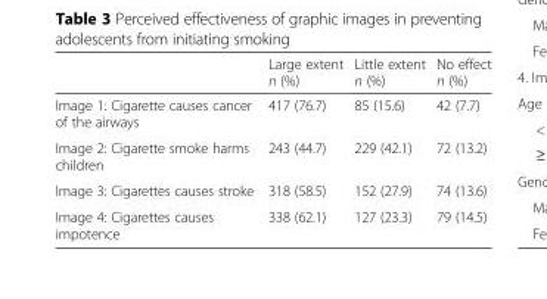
<table><thead><tr><td></td><td>Large extent n (%)</td><td>Little extent n (%)</td><td>No effect n (%)</td></tr></thead><tbody><tr><td>Image 1: Cigarette causes cancer of the airways</td><td>417 (76.7)</td><td>85 (15.6)</td><td>42 (7.7)</td></tr><tr><td>Image 2: Cigarette smoke harms children</td><td>243 (44.7)</td><td>229 (42.1)</td><td>72 (13.2)</td></tr><tr><td>Image 3: Cigarettes causes stroke</td><td>318 (58.5)</td><td>152 (27.9)</td><td>74 (13.6)</td></tr><tr><td>Image 4: Cigarettes causes impotence</td><td>338 (62.1)</td><td>127 (23.3)</td><td>79 (14.5)</td></tr></tbody></table>